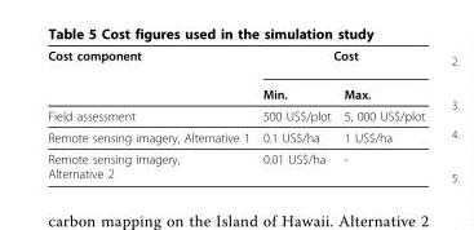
<table><thead><tr><td rowspan="2">Cost component</td><td colspan="2">Cost</td></tr><tr><td>Min.</td><td>Max.</td></tr></thead><tbody><tr><td>Field assessment</td><td>500 US$/plot</td><td>5, 000 US$/plot</td></tr><tr><td>Remote sensing imagery, Alternative 1</td><td>0.1 US$/ha</td><td>1 US$/ha</td></tr><tr><td>Remote sensing imagery, Alternative 2</td><td>0.01 US$/ha</td><td>-</td></tr></tbody></table>